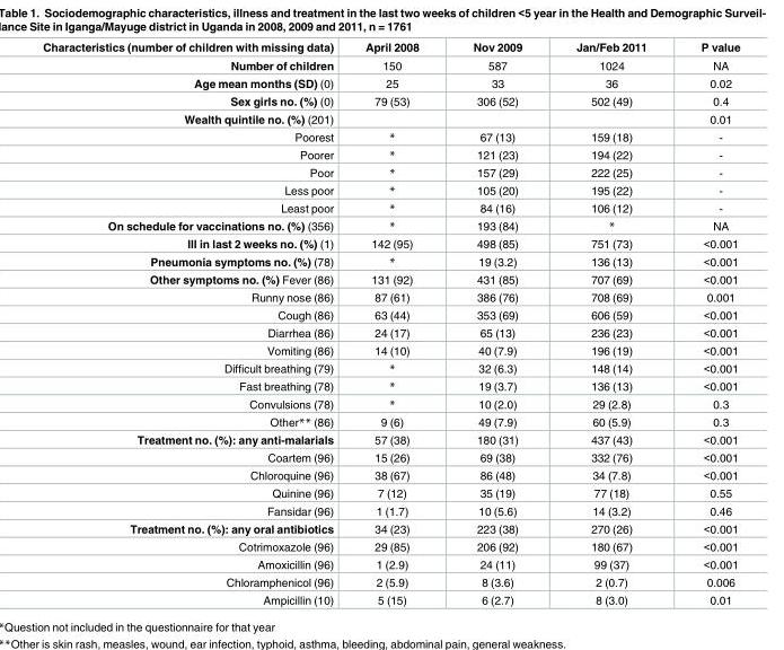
<table><thead><tr><td>Characteristics (number of children with missing data)</td><td>April 2008</td><td>Nov 2009</td><td>Jan/Feb 2011</td><td>P value</td></tr></thead><tbody><tr><td>Number of children</td><td>150</td><td>587</td><td>1024</td><td>NA</td></tr><tr><td>Age mean months (SD) (0)</td><td>25</td><td>33</td><td>36</td><td>0.02</td></tr><tr><td>Sex girls no. (%) (0)</td><td>79 (53)</td><td>306 (52)</td><td>502 (49)</td><td>0.4</td></tr><tr><td>Wealth quintile no. (%) (201)</td><td></td><td></td><td></td><td>0.01</td></tr><tr><td>Poorest</td><td>*</td><td>67 (13)</td><td>159 (18)</td><td>-</td></tr><tr><td>Poorer</td><td>*</td><td>121 (23)</td><td>194 (22)</td><td>-</td></tr><tr><td>Poor</td><td>*</td><td>157 (29)</td><td>222 (25)</td><td>-</td></tr><tr><td>Less poor</td><td>*</td><td>105 (20)</td><td>195 (22)</td><td>-</td></tr><tr><td>Least poor</td><td>*</td><td>84 (16)</td><td>106 (12)</td><td>-</td></tr><tr><td>On schedule for vaccinations no. (%) (356)</td><td>*</td><td>193 (84)</td><td>*</td><td>NA</td></tr><tr><td>Ill in last 2 weeks no. (%) (1)</td><td>142 (95)</td><td>498 (85)</td><td>751 (73)</td><td>&lt;0.001</td></tr><tr><td>Pneumonia symptoms no. (%) (78)</td><td>*</td><td>19 (3.2)</td><td>136 (13)</td><td>&lt;0.001</td></tr><tr><td>Other symptoms no. (%) Fever (86)</td><td>131 (92)</td><td>431 (85)</td><td>707 (69)</td><td>&lt;0.001</td></tr><tr><td>Runny nose (86)</td><td>87 (61)</td><td>386 (76)</td><td>708 (69)</td><td>0.001</td></tr><tr><td>Cough (86)</td><td>63 (44)</td><td>353 (69)</td><td>606 (59)</td><td>&lt;0.001</td></tr><tr><td>Diarrhea (86)</td><td>24 (17)</td><td>65 (13)</td><td>236 (23)</td><td>&lt;0.001</td></tr><tr><td>Vomiting (86)</td><td>14 (10)</td><td>40 (7.9)</td><td>196 (19)</td><td>&lt;0.001</td></tr><tr><td>Difficult breathing (79)</td><td>*</td><td>32 (6.3)</td><td>148 (14)</td><td>&lt;0.001</td></tr><tr><td>Fast breathing (78)</td><td>*</td><td>19 (3.7)</td><td>136 (13)</td><td>&lt;0.001</td></tr><tr><td>Convulsions (78)</td><td>*</td><td>10 (2.0)</td><td>29 (2.8)</td><td>0.3</td></tr><tr><td>Other** (86)</td><td>9 (6)</td><td>49 (7.9)</td><td>60 (5.9)</td><td>0.3</td></tr><tr><td>Treatment no. (%): any anti-malarials</td><td>57 (38)</td><td>180 (31)</td><td>437 (43)</td><td>&lt;0.001</td></tr><tr><td>Coartem (96)</td><td>15 (26)</td><td>69 (38)</td><td>332 (76)</td><td>&lt;0.001</td></tr><tr><td>Chloroquine (96)</td><td>38 (67)</td><td>86 (48)</td><td>34 (7.8)</td><td>&lt;0.001</td></tr><tr><td>Quinine (96)</td><td>7 (12)</td><td>35 (19)</td><td>77 (18)</td><td>0.55</td></tr><tr><td>Fansidar (96)</td><td>1 (1.7)</td><td>10 (5.6)</td><td>14 (3.2)</td><td>0.46</td></tr><tr><td>Treatment no. (%): any oral antibiotics</td><td>34 (23)</td><td>223 (38)</td><td>270 (26)</td><td>&lt;0.001</td></tr><tr><td>Cotrimoxazole (96)</td><td>29 (85)</td><td>206 (92)</td><td>180 (67)</td><td>&lt;0.001</td></tr><tr><td>Amoxicillin (96)</td><td>1 (2.9)</td><td>24 (11)</td><td>99 (37)</td><td>&lt;0.001</td></tr><tr><td>Chloramphenicol (96)</td><td>2 (5.9)</td><td>8 (3.6)</td><td>2 (0.7)</td><td>0.006</td></tr><tr><td>Ampicillin (10)</td><td>5 (15)</td><td>6 (2.7)</td><td>8 (3.0)</td><td>0.01</td></tr></tbody></table>